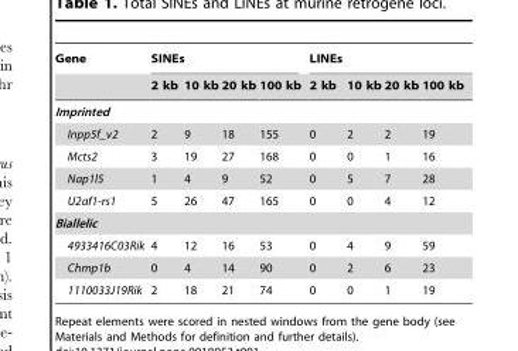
<table><thead><tr><td rowspan="2">Gene</td><td colspan="4">SINEs</td><td colspan="4">LINEs</td></tr><tr><td>2 kb</td><td>10 kb</td><td>20 kb</td><td>100 kb</td><td>2 kb</td><td>10 kb</td><td>20 kb</td><td>100 kb</td></tr></thead><tbody><tr><td colspan="9">Imprinted</td></tr><tr><td>Inpp5f_v2</td><td>2</td><td>9</td><td>18</td><td>155</td><td>0</td><td>2</td><td>2</td><td>19</td></tr><tr><td>Mcts2</td><td>3</td><td>19</td><td>27</td><td>168</td><td>0</td><td>0</td><td>1</td><td>16</td></tr><tr><td>Nap1l5</td><td>1</td><td>4</td><td>9</td><td>52</td><td>0</td><td>5</td><td>7</td><td>28</td></tr><tr><td>U2af1-rs1</td><td>5</td><td>26</td><td>47</td><td>165</td><td>0</td><td>0</td><td>4</td><td>12</td></tr><tr><td colspan="9">Biallelic</td></tr><tr><td>4933416C03Rik</td><td>4</td><td>12</td><td>16</td><td>53</td><td>0</td><td>4</td><td>9</td><td>59</td></tr><tr><td>Chmp1b</td><td>0</td><td>4</td><td>14</td><td>90</td><td>0</td><td>2</td><td>6</td><td>23</td></tr><tr><td>1110033J19Rik</td><td>2</td><td>18</td><td>21</td><td>74</td><td>0</td><td>0</td><td>1</td><td>19</td></tr></tbody></table>